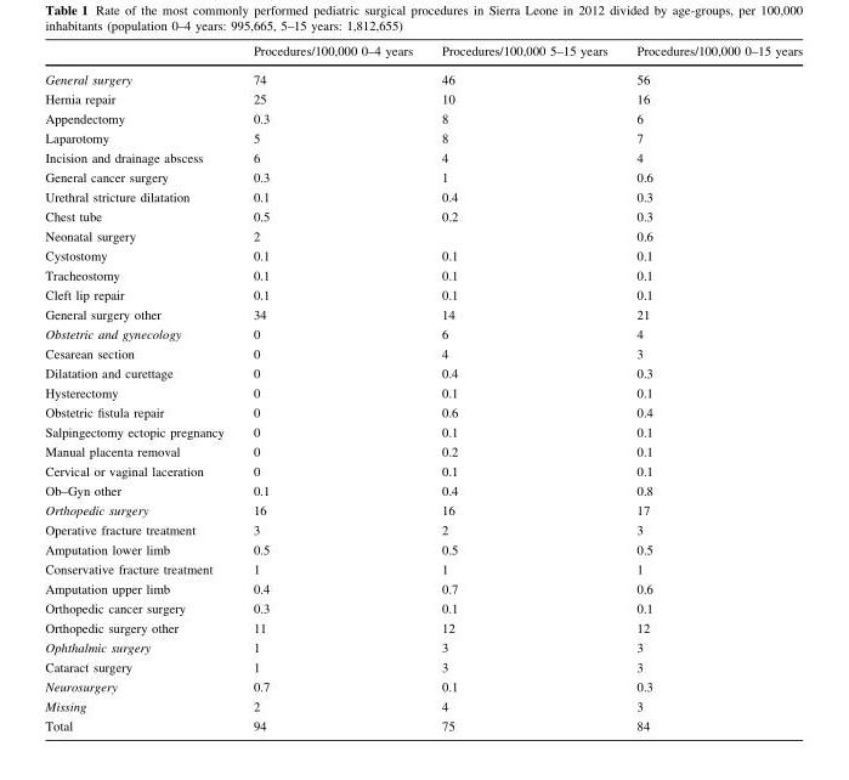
<table><thead><tr><td></td><td>Procedures/100,000 0–4 years</td><td>Procedures/100,000 5–15 years</td><td>Procedures/100,000 0–15 years</td></tr></thead><tbody><tr><td>General surgery</td><td>74</td><td>46</td><td>56</td></tr><tr><td>Hernia repair</td><td>25</td><td>10</td><td>16</td></tr><tr><td>Appendectomy</td><td>0.3</td><td>8</td><td>6</td></tr><tr><td>Laparotomy</td><td>5</td><td>8</td><td>7</td></tr><tr><td>Incision and drainage abscess</td><td>6</td><td>4</td><td>4</td></tr><tr><td>General cancer surgery</td><td>0.3</td><td>1</td><td>0.6</td></tr><tr><td>Urethral stricture dilatation</td><td>0.1</td><td>0.4</td><td>0.3</td></tr><tr><td>Chest tube</td><td>0.5</td><td>0.2</td><td>0.3</td></tr><tr><td>Neonatal surgery</td><td>2</td><td></td><td>0.6</td></tr><tr><td>Cystostomy</td><td>0.1</td><td>0.1</td><td>0.1</td></tr><tr><td>Tracheostomy</td><td>0.1</td><td>0.1</td><td>0.1</td></tr><tr><td>Cleft lip repair</td><td>0.1</td><td>0.1</td><td>0.1</td></tr><tr><td>General surgery other</td><td>34</td><td>14</td><td>21</td></tr><tr><td>Obstetric and gynecology</td><td>0</td><td>6</td><td>4</td></tr><tr><td>Cesarean section</td><td>0</td><td>4</td><td>3</td></tr><tr><td>Dilatation and curettage</td><td>0</td><td>0.4</td><td>0.3</td></tr><tr><td>Hysterectomy</td><td>0</td><td>0.1</td><td>0.1</td></tr><tr><td>Obstetric fistula repair</td><td>0</td><td>0.6</td><td>0.4</td></tr><tr><td>Salpingectomy ectopic pregnancy</td><td>0</td><td>0.1</td><td>0.1</td></tr><tr><td>Manual placenta removal</td><td>0</td><td>0.2</td><td>0.1</td></tr><tr><td>Cervical or vaginal laceration</td><td>0</td><td>0.1</td><td>0.1</td></tr><tr><td>Ob–Gyn other</td><td>0.1</td><td>0.4</td><td>0.8</td></tr><tr><td>Orthopedic surgery</td><td>16</td><td>16</td><td>17</td></tr><tr><td>Operative fracture treatment</td><td>3</td><td>2</td><td>3</td></tr><tr><td>Amputation lower limb</td><td>0.5</td><td>0.5</td><td>0.5</td></tr><tr><td>Conservative fracture treatment</td><td>1</td><td>1</td><td>1</td></tr><tr><td>Amputation upper limb</td><td>0.4</td><td>0.7</td><td>0.6</td></tr><tr><td>Orthopedic cancer surgery</td><td>0.3</td><td>0.1</td><td>0.1</td></tr><tr><td>Orthopedic surgery other</td><td>11</td><td>12</td><td>12</td></tr><tr><td>Ophthalmic surgery</td><td>1</td><td>3</td><td>3</td></tr><tr><td>Cataract surgery</td><td>1</td><td>3</td><td>3</td></tr><tr><td>Neurosurgery</td><td>0.7</td><td>0.1</td><td>0.3</td></tr><tr><td>Missing</td><td>2</td><td>4</td><td>3</td></tr><tr><td>Total</td><td>94</td><td>75</td><td>84</td></tr></tbody></table>